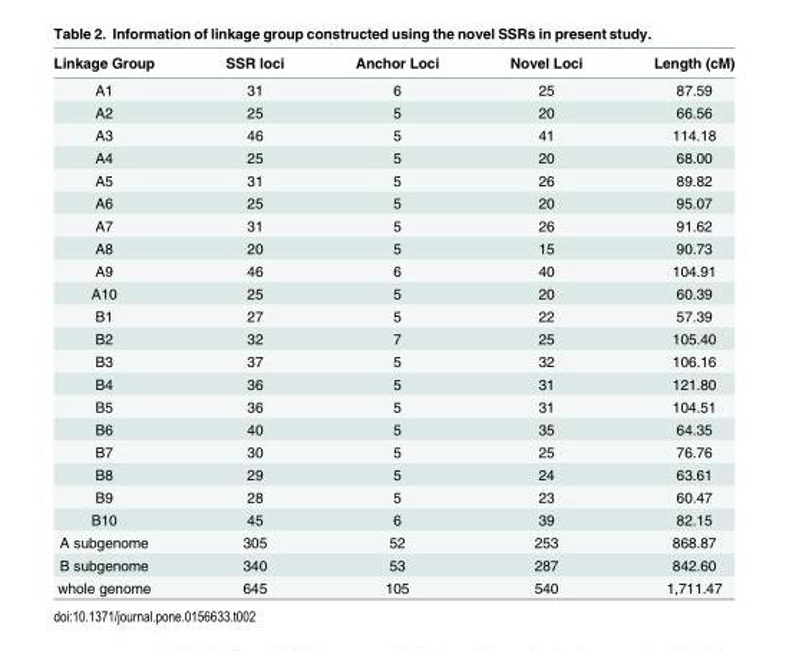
<table><thead><tr><td>Linkage Group</td><td>SSR loci</td><td>Anchor Loci</td><td>Novel Loci</td><td>Length (cM)</td></tr></thead><tbody><tr><td>A1</td><td>31</td><td>6</td><td>25</td><td>87.59</td></tr><tr><td>A2</td><td>25</td><td>5</td><td>20</td><td>66.56</td></tr><tr><td>A3</td><td>46</td><td>5</td><td>41</td><td>114.18</td></tr><tr><td>A4</td><td>25</td><td>5</td><td>20</td><td>68.00</td></tr><tr><td>A5</td><td>31</td><td>5</td><td>26</td><td>89.82</td></tr><tr><td>A6</td><td>25</td><td>5</td><td>20</td><td>95.07</td></tr><tr><td>A7</td><td>31</td><td>5</td><td>26</td><td>91.62</td></tr><tr><td>A8</td><td>20</td><td>5</td><td>15</td><td>90.73</td></tr><tr><td>A9</td><td>46</td><td>6</td><td>40</td><td>104.91</td></tr><tr><td>A10</td><td>25</td><td>5</td><td>20</td><td>60.39</td></tr><tr><td>B1</td><td>27</td><td>5</td><td>22</td><td>57.39</td></tr><tr><td>B2</td><td>32</td><td>7</td><td>25</td><td>105.40</td></tr><tr><td>B3</td><td>37</td><td>5</td><td>32</td><td>106.16</td></tr><tr><td>B4</td><td>36</td><td>5</td><td>31</td><td>121.80</td></tr><tr><td>B5</td><td>36</td><td>5</td><td>31</td><td>104.51</td></tr><tr><td>B6</td><td>40</td><td>5</td><td>35</td><td>64.35</td></tr><tr><td>B7</td><td>30</td><td>5</td><td>25</td><td>76.76</td></tr><tr><td>B8</td><td>29</td><td>5</td><td>24</td><td>63.61</td></tr><tr><td>B9</td><td>28</td><td>5</td><td>23</td><td>60.47</td></tr><tr><td>B10</td><td>45</td><td>6</td><td>39</td><td>82.15</td></tr><tr><td>A subgenome</td><td>305</td><td>52</td><td>253</td><td>868.87</td></tr><tr><td>B subgenome</td><td>340</td><td>53</td><td>287</td><td>842.60</td></tr><tr><td>whole genome</td><td>645</td><td>105</td><td>540</td><td>1,711.47</td></tr></tbody></table>